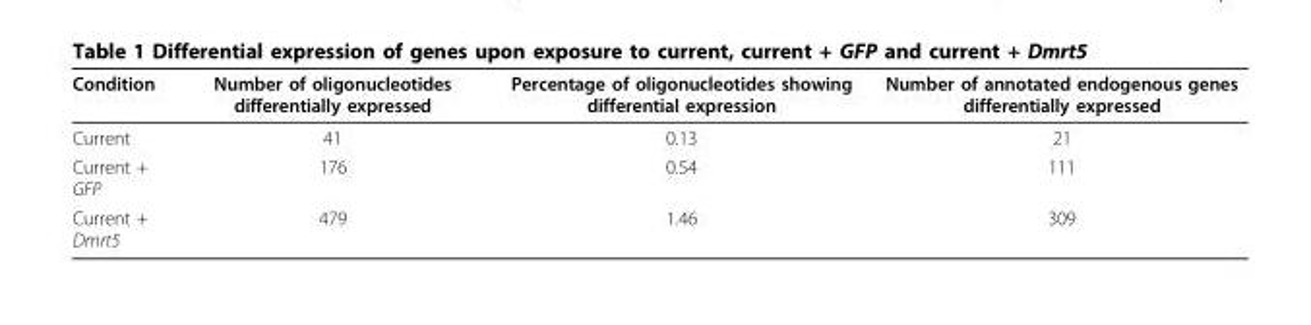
<table><thead><tr><td>Condition</td><td>Number of oligonucleotides differentially expressed</td><td>Percentage of oligonucleotides showing differential expression</td><td>Number of annotated endogenous genes differentially expressed</td></tr></thead><tbody><tr><td>Current</td><td>41</td><td>0.13</td><td>21</td></tr><tr><td>Current + GFP</td><td>176</td><td>0.54</td><td>111</td></tr><tr><td>Current + Dmrt5</td><td>479</td><td>1.46</td><td>309</td></tr></tbody></table>